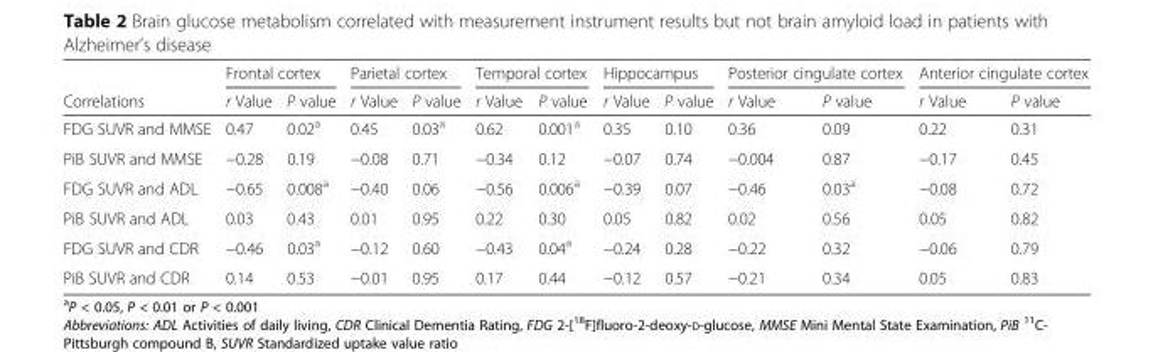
<table><thead><tr><td rowspan="2">Correlations</td><td colspan="2">Frontal cortex</td><td colspan="2">Parietal cortex</td><td colspan="2">Temporal cortex</td><td colspan="2">Hippocampus</td><td colspan="2">Posterior cingulate cortex</td><td colspan="2">Anterior cingulate cortex</td></tr><tr><td>r Value</td><td>P value</td><td>r Value</td><td>P value</td><td>r Value</td><td>P value</td><td>r Value</td><td>P value</td><td>r Value</td><td>P value</td><td>r Value</td><td>P value</td></tr></thead><tbody><tr><td>FDG SUVR and MMSE</td><td>0.47</td><td>0.02<sup>a</sup></td><td>0.45</td><td>0.03<sup>a</sup></td><td>0.62</td><td>0.001<sup>a</sup></td><td>0.35</td><td>0.10</td><td>0.36</td><td>0.09</td><td>0.22</td><td>0.31</td></tr><tr><td>PiB SUVR and MMSE</td><td>−0.28</td><td>0.19</td><td>−0.08</td><td>0.71</td><td>−0.34</td><td>0.12</td><td>−0.07</td><td>0.74</td><td>−0.004</td><td>0.87</td><td>−0.17</td><td>0.45</td></tr><tr><td>FDG SUVR and ADL</td><td>−0.65</td><td>0.008<sup>a</sup></td><td>−0.40</td><td>0.06</td><td>−0.56</td><td>0.006<sup>a</sup></td><td>−0.39</td><td>0.07</td><td>−0.46</td><td>0.03<sup>a</sup></td><td>−0.08</td><td>0.72</td></tr><tr><td>PiB SUVR and ADL</td><td>0.03</td><td>0.43</td><td>0.01</td><td>0.95</td><td>0.22</td><td>0.30</td><td>0.05</td><td>0.82</td><td>0.02</td><td>0.56</td><td>0.05</td><td>0.82</td></tr><tr><td>FDG SUVR and CDR</td><td>−0.46</td><td>0.03<sup>a</sup></td><td>−0.12</td><td>0.60</td><td>−0.43</td><td>0.04<sup>a</sup></td><td>−0.24</td><td>0.28</td><td>−0.22</td><td>0.32</td><td>−0.06</td><td>0.79</td></tr><tr><td>PiB SUVR and CDR</td><td>0.14</td><td>0.53</td><td>−0.01</td><td>0.95</td><td>0.17</td><td>0.44</td><td>−0.12</td><td>0.57</td><td>−0.21</td><td>0.34</td><td>0.05</td><td>0.83</td></tr></tbody></table>